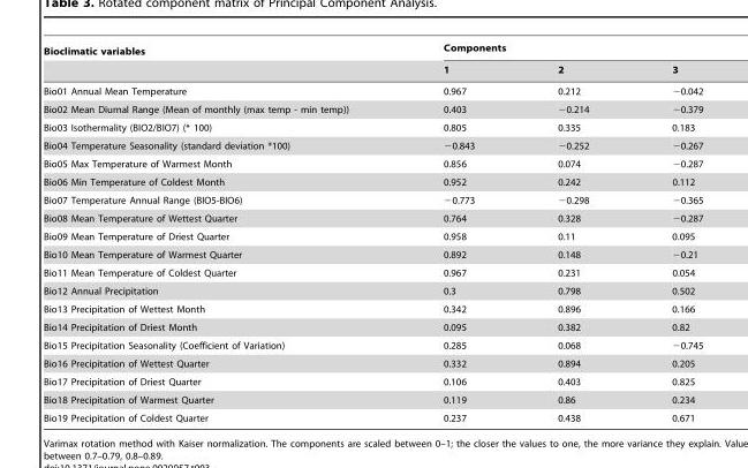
<table><thead><tr><td rowspan="2">Bioclimatic variables</td><td colspan="3">Components</td></tr><tr><td>1</td><td>2</td><td>3</td></tr></thead><tbody><tr><td>Bio01 Annual Mean Temperature</td><td>0.967</td><td>0.212</td><td>−0.042</td></tr><tr><td>Bio02 Mean Diurnal Range (Mean of monthly (max temp - min temp))</td><td>0.403</td><td>−0.214</td><td>−0.379</td></tr><tr><td>Bio03 Isothermality (BIO2/BIO7) (* 100)</td><td>0.805</td><td>0.335</td><td>0.183</td></tr><tr><td>Bio04 Temperature Seasonality (standard deviation *100)</td><td>−0.843</td><td>−0.252</td><td>−0.267</td></tr><tr><td>Bio05 Max Temperature of Warmest Month</td><td>0.856</td><td>0.074</td><td>−0.287</td></tr><tr><td>Bio06 Min Temperature of Coldest Month</td><td>0.952</td><td>0.242</td><td>0.112</td></tr><tr><td>Bio07 Temperature Annual Range (BIO5-BIO6)</td><td>−0.773</td><td>−0.298</td><td>−0.365</td></tr><tr><td>Bio08 Mean Temperature of Wettest Quarter</td><td>0.764</td><td>0.328</td><td>−0.287</td></tr><tr><td>Bio09 Mean Temperature of Driest Quarter</td><td>0.958</td><td>0.11</td><td>0.095</td></tr><tr><td>Bio10 Mean Temperature of Warmest Quarter</td><td>0.892</td><td>0.148</td><td>−0.21</td></tr><tr><td>Bio11 Mean Temperature of Coldest Quarter</td><td>0.967</td><td>0.231</td><td>0.054</td></tr><tr><td>Bio12 Annual Precipitation</td><td>0.3</td><td>0.798</td><td>0.502</td></tr><tr><td>Bio13 Precipitation of Wettest Month</td><td>0.342</td><td>0.896</td><td>0.166</td></tr><tr><td>Bio14 Precipitation of Driest Month</td><td>0.095</td><td>0.382</td><td>0.82</td></tr><tr><td>Bio15 Precipitation Seasonality (Coefficient of Variation)</td><td>0.285</td><td>0.068</td><td>−0.745</td></tr><tr><td>Bio16 Precipitation of Wettest Quarter</td><td>0.332</td><td>0.894</td><td>0.205</td></tr><tr><td>Bio17 Precipitation of Driest Quarter</td><td>0.106</td><td>0.403</td><td>0.825</td></tr><tr><td>Bio18 Precipitation of Warmest Quarter</td><td>0.119</td><td>0.86</td><td>0.234</td></tr><tr><td>Bio19 Precipitation of Coldest Quarter</td><td>0.237</td><td>0.438</td><td>0.671</td></tr></tbody></table>